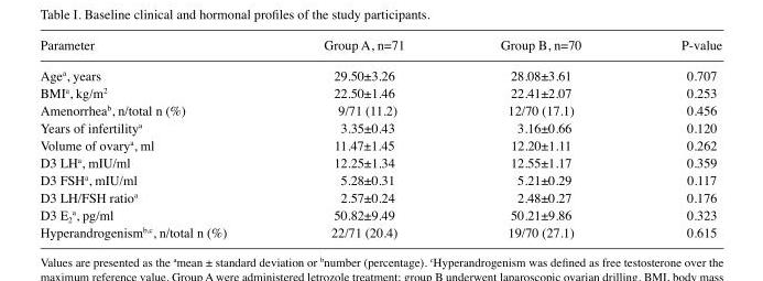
<table><thead><tr><td>Parameter</td><td>Group A, n=71</td><td>Group B, n=70</td><td>P-value</td></tr></thead><tbody><tr><td>Age<sup>a</sup>, years</td><td>29.50±3.26</td><td>28.08±3.61</td><td>0.707</td></tr><tr><td>BMI<sup>a</sup>, kg/m<sup>2</sup></td><td>22.50±1.46</td><td>22.41±2.07</td><td>0.253</td></tr><tr><td>Amenorrhea<sup>b</sup>, n/total n (%)</td><td>9/71 (11.2)</td><td>12/70 (17.1)</td><td>0.456</td></tr><tr><td>Years of infertility<sup>a</sup></td><td>3.35±0.43</td><td>3.16±0.66</td><td>0.120</td></tr><tr><td>Volume of ovary<sup>a</sup>, ml</td><td>11.47±1.45</td><td>12.20±1.11</td><td>0.262</td></tr><tr><td>D3 LH<sup>a</sup>, mIU/ml</td><td>12.25±1.34</td><td>12.55±1.17</td><td>0.359</td></tr><tr><td>D3 FSH<sup>a</sup>, mIU/ml</td><td>5.28±0.31</td><td>5.21±0.29</td><td>0.117</td></tr><tr><td>D3 LH/FSH ratio<sup>a</sup></td><td>2.57±0.24</td><td>2.48±0.27</td><td>0.176</td></tr><tr><td>D3 E<sub>2</sub> <sup>a</sup>, pg/ml</td><td>50.82±9.49</td><td>50.21±9.86</td><td>0.323</td></tr><tr><td>Hyperandrogenism<sup>b,c</sup>, n/total n (%)</td><td>22/71 (20.4)</td><td>19/70 (27.1)</td><td>0.615</td></tr></tbody></table>